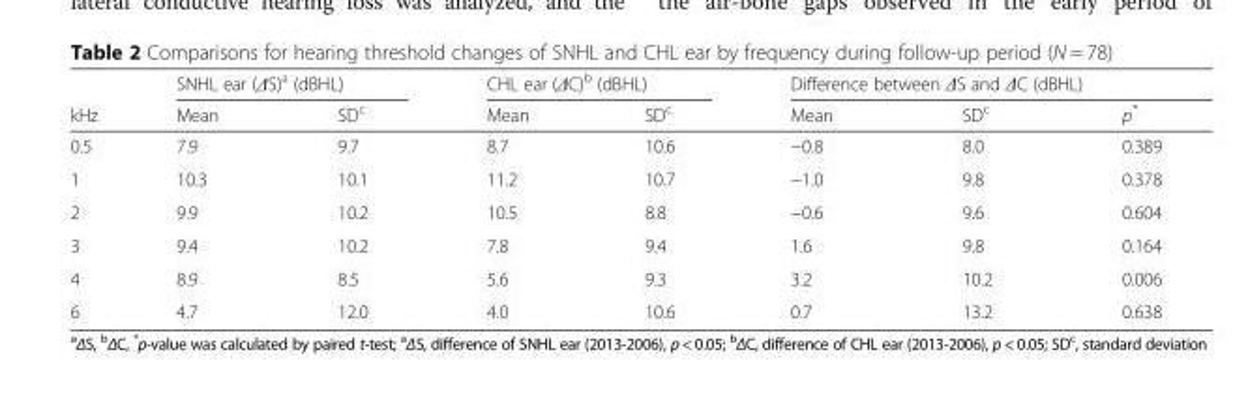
<table><thead><tr><td rowspan="2">kHz</td><td colspan="2">SNHL ear (ΔS)<sup>a</sup> (dBHL)</td><td colspan="2">CHL ear (ΔC)<sup>b</sup> (dBHL)</td><td colspan="3">Difference between ΔS and ΔC (dBHL)</td></tr><tr><td>Mean</td><td>SD<sup>c</sup></td><td>Mean</td><td>SD<sup>c</sup></td><td>Mean</td><td>SD<sup>c</sup></td><td>p*</td></tr></thead><tbody><tr><td>0.5</td><td>7.9</td><td>9.7</td><td>8.7</td><td>10.6</td><td>−0.8</td><td>8.0</td><td>0.389</td></tr><tr><td>1</td><td>10.3</td><td>10.1</td><td>11.2</td><td>10.7</td><td>−1.0</td><td>9.8</td><td>0.378</td></tr><tr><td>2</td><td>9.9</td><td>10.2</td><td>10.5</td><td>8.8</td><td>−0.6</td><td>9.6</td><td>0.604</td></tr><tr><td>3</td><td>9.4</td><td>10.2</td><td>7.8</td><td>9.4</td><td>1.6</td><td>9.8</td><td>0.164</td></tr><tr><td>4</td><td>8.9</td><td>8.5</td><td>5.6</td><td>9.3</td><td>3.2</td><td>10.2</td><td>0.006</td></tr><tr><td>6</td><td>4.7</td><td>12.0</td><td>4.0</td><td>10.6</td><td>0.7</td><td>13.2</td><td>0.638</td></tr></tbody></table>